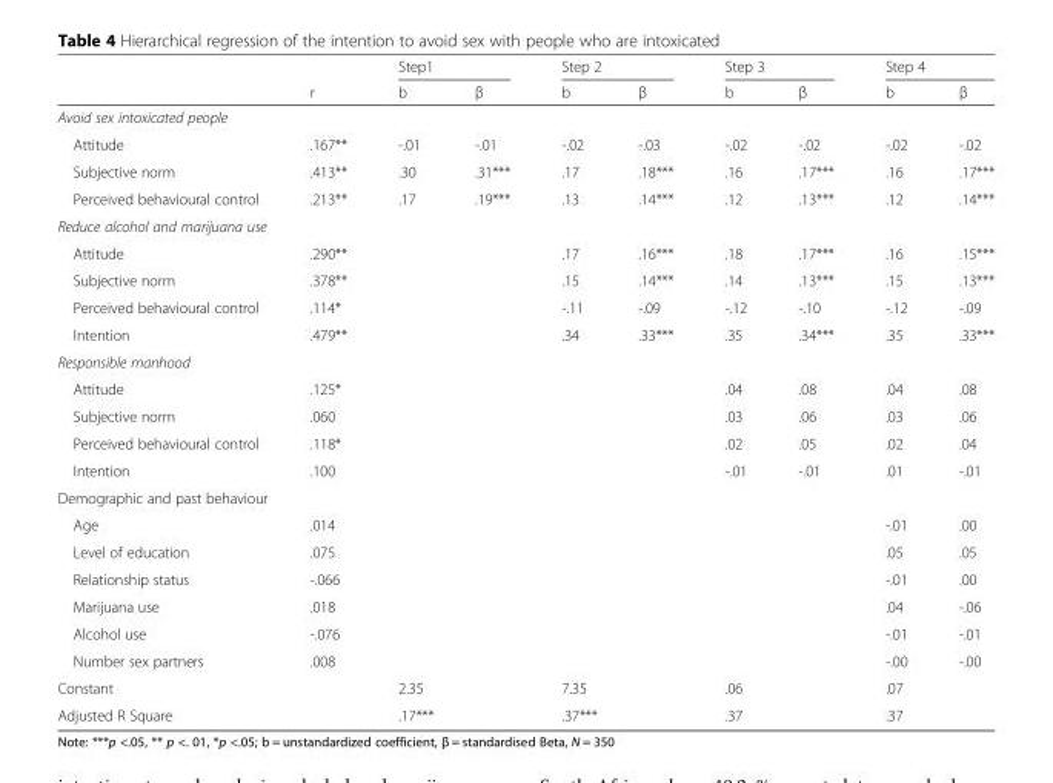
<table><thead><tr><td rowspan="2"></td><td rowspan="2">r</td><td colspan="2">Step1</td><td colspan="2">Step 2</td><td colspan="2">Step 3</td><td colspan="2">Step 4</td></tr><tr><td>b</td><td>β</td><td>b</td><td>β</td><td>b</td><td>β</td><td>b</td><td>β</td></tr></thead><tbody><tr><td colspan="10">Avoid sex intoxicated people</td></tr><tr><td>Attitude</td><td>.167**</td><td>-.01</td><td>-.01</td><td>-.02</td><td>-.03</td><td>-.02</td><td>-.02</td><td>-.02</td><td>-.02</td></tr><tr><td>Subjective norm</td><td>.413**</td><td>.30</td><td>.31***</td><td>.17</td><td>.18***</td><td>.16</td><td>.17***</td><td>.16</td><td>.17***</td></tr><tr><td>Perceived behavioural control</td><td>.213**</td><td>.17</td><td>.19***</td><td>.13</td><td>.14***</td><td>.12</td><td>.13***</td><td>.12</td><td>.14***</td></tr><tr><td colspan="10">Reduce alcohol and marijuana use</td></tr><tr><td>Attitude</td><td>.290**</td><td></td><td></td><td>.17</td><td>.16***</td><td>.18</td><td>.17***</td><td>.16</td><td>.15***</td></tr><tr><td>Subjective norm</td><td>.378**</td><td></td><td></td><td>.15</td><td>.14***</td><td>.14</td><td>.13***</td><td>.15</td><td>.13***</td></tr><tr><td>Perceived behavioural control</td><td>.114*</td><td></td><td></td><td>-.11</td><td>-.09</td><td>-.12</td><td>-.10</td><td>-.12</td><td>-.09</td></tr><tr><td>Intention</td><td>.479**</td><td></td><td></td><td>.34</td><td>.33***</td><td>.35</td><td>.34***</td><td>.35</td><td>.33***</td></tr><tr><td colspan="10">Responsible manhood</td></tr><tr><td>Attitude</td><td>.125*</td><td></td><td></td><td></td><td></td><td>.04</td><td>.08</td><td>.04</td><td>.08</td></tr><tr><td>Subjective norm</td><td>.060</td><td></td><td></td><td></td><td></td><td>.03</td><td>.06</td><td>.03</td><td>.06</td></tr><tr><td>Perceived behavioural control</td><td>.118*</td><td></td><td></td><td></td><td></td><td>.02</td><td>.05</td><td>.02</td><td>.04</td></tr><tr><td>Intention</td><td>.100</td><td></td><td></td><td></td><td></td><td>-.01</td><td>-.01</td><td>.01</td><td>-.01</td></tr><tr><td colspan="10">Demographic and past behaviour</td></tr><tr><td>Age</td><td>.014</td><td></td><td></td><td></td><td></td><td></td><td></td><td>-.01</td><td>.00</td></tr><tr><td>Level of education</td><td>.075</td><td></td><td></td><td></td><td></td><td></td><td></td><td>.05</td><td>.05</td></tr><tr><td>Relationship status</td><td>-.066</td><td></td><td></td><td></td><td></td><td></td><td></td><td>-.01</td><td>.00</td></tr><tr><td>Marijuana use</td><td>.018</td><td></td><td></td><td></td><td></td><td></td><td></td><td>.04</td><td>-.06</td></tr><tr><td>Alcohol use</td><td>-.076</td><td></td><td></td><td></td><td></td><td></td><td></td><td>-.01</td><td>-.01</td></tr><tr><td>Number sex partners</td><td>.008</td><td></td><td></td><td></td><td></td><td></td><td></td><td>-.00</td><td>-.00</td></tr><tr><td>Constant</td><td></td><td>2.35</td><td></td><td>7.35</td><td></td><td>.06</td><td></td><td>.07</td><td></td></tr><tr><td>Adjusted R Square</td><td></td><td colspan="2">.17***</td><td colspan="2">.37***</td><td colspan="2">.37</td><td colspan="2">.37</td></tr></tbody></table>